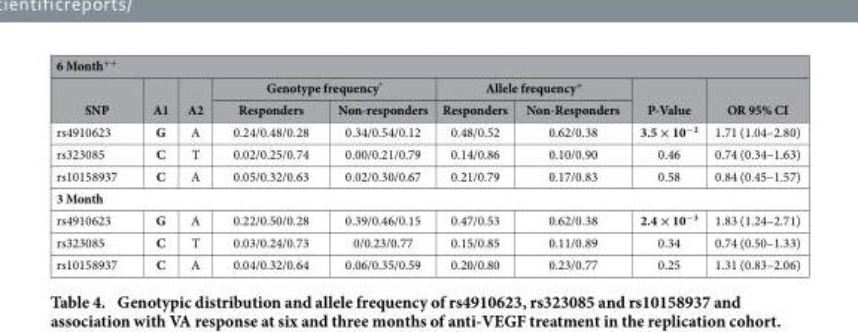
<table><thead><tr><td colspan="9">6 Month<sup>++</sup></td></tr><tr><td rowspan="2">SNP</td><td rowspan="2">A1</td><td rowspan="2">A2</td><td colspan="2">Genotype frequency*</td><td colspan="2">Allele frequency<sup>+</sup></td><td rowspan="2">P-Value</td><td rowspan="2">OR 95% CI</td></tr><tr><td>Responders</td><td>Non-responders</td><td>Responders</td><td>Non-Responders</td></tr></thead><tbody><tr><td>rs4910623</td><td>G</td><td>A</td><td>0.24/0.48/0.28</td><td>0.34/0.54/0.12</td><td>0.48/0.52</td><td>0.62/0.38</td><td>3.5 × 10<sup>−2</sup></td><td>1.71 (1.04–2.80)</td></tr><tr><td>rs323085</td><td>C</td><td>T</td><td>0.02/0.25/0.74</td><td>0.00/0.21/0.79</td><td>0.14/0.86</td><td>0.10/0.90</td><td>0.46</td><td>0.74 (0.34–1.63)</td></tr><tr><td>rs10158937</td><td>C</td><td>A</td><td>0.05/0.32/0.63</td><td>0.02/0.30/0.67</td><td>0.21/0.79</td><td>0.17/0.83</td><td>0.58</td><td>0.84 (0.45–1.57)</td></tr><tr><td colspan="9">3 Month</td></tr><tr><td>rs4910623</td><td>G</td><td>A</td><td>0.22/0.50/0.28</td><td>0.39/0.46/0.15</td><td>0.47/0.53</td><td>0.62/0.38</td><td>2.4 × 10<sup>−3</sup></td><td>1.83 (1.24–2.71)</td></tr><tr><td>rs323085</td><td>C</td><td>T</td><td>0.03/0.24/0.73</td><td>0/0.23/0.77</td><td>0.15/0.85</td><td>0.11/0.89</td><td>0.34</td><td>0.74 (0.50–1.33)</td></tr><tr><td>rs10158937</td><td>C</td><td>A</td><td>0.04/0.32/0.64</td><td>0.06/0.35/0.59</td><td>0.20/0.80</td><td>0.23/0.77</td><td>0.25</td><td>1.31 (0.83–2.06)</td></tr></tbody></table>